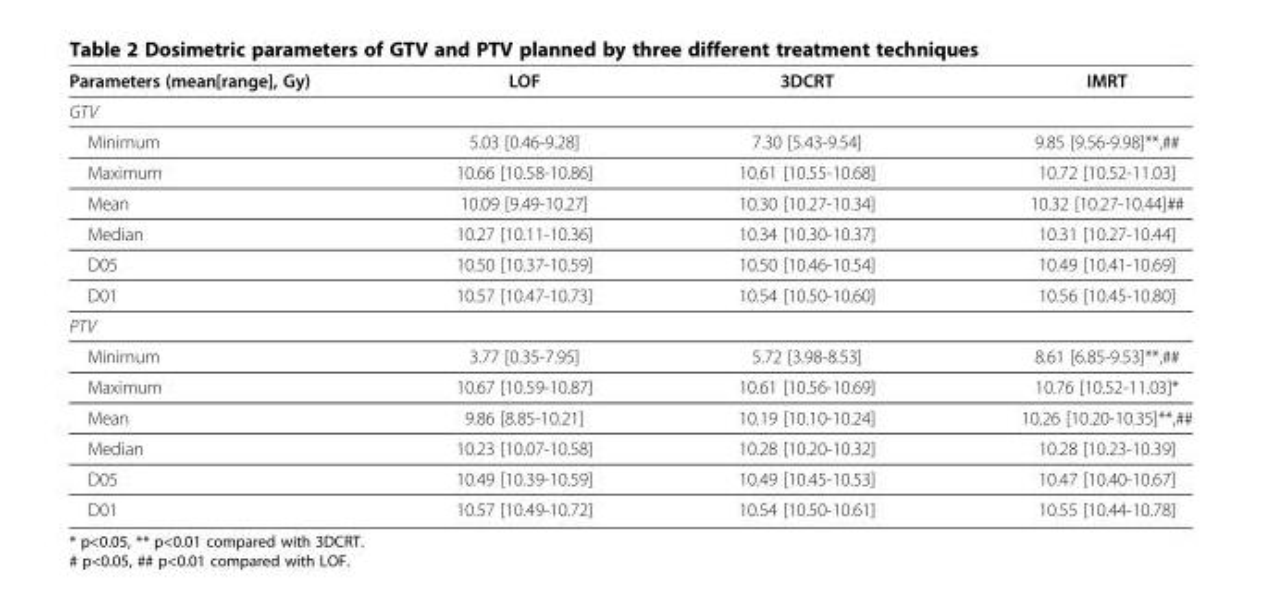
<table><thead><tr><td>Parameters (mean[range], Gy)</td><td>LOF</td><td>3DCRT</td><td>IMRT</td></tr></thead><tbody><tr><td colspan="4">GTV</td></tr><tr><td>Minimum</td><td>5.03 [0.46-9.28]</td><td>7.30 [5.43-9.54]</td><td>9.85 [9.56-9.98]**,##</td></tr><tr><td>Maximum</td><td>10.66 [10.58-10.86]</td><td>10.61 [10.55-10.68]</td><td>10.72 [10.52-11.03]</td></tr><tr><td>Mean</td><td>10.09 [9.49-10.27]</td><td>10.30 [10.27-10.34]</td><td>10.32 [10.27-10.44]##</td></tr><tr><td>Median</td><td>10.27 [10.11-10.36]</td><td>10.34 [10.30-10.37]</td><td>10.31 [10.27-10.44]</td></tr><tr><td>D05</td><td>10.50 [10.37-10.59]</td><td>10.50 [10.46-10.54]</td><td>10.49 [10.41-10.69]</td></tr><tr><td>D01</td><td>10.57 [10.47-10.73]</td><td>10.54 [10.50-10.60]</td><td>10.56 [10.45-10.80]</td></tr><tr><td colspan="4">PTV</td></tr><tr><td>Minimum</td><td>3.77 [0.35-7.95]</td><td>5.72 [3.98-8.53]</td><td>8.61 [6.85-9.53]**,##</td></tr><tr><td>Maximum</td><td>10.67 [10.59-10.87]</td><td>10.61 [10.56-10.69]</td><td>10.76 [10.52-11.03]*</td></tr><tr><td>Mean</td><td>9.86 [8.85-10.21]</td><td>10.19 [10.10-10.24]</td><td>10.26 [10.20-10.35]**,##</td></tr><tr><td>Median</td><td>10.23 [10.07-10.58]</td><td>10.28 [10.20-10.32]</td><td>10.28 [10.23-10.39]</td></tr><tr><td>D05</td><td>10.49 [10.39-10.59]</td><td>10.49 [10.45-10.53]</td><td>10.47 [10.40-10.67]</td></tr><tr><td>D01</td><td>10.57 [10.49-10.72]</td><td>10.54 [10.50-10.61]</td><td>10.55 [10.44-10.78]</td></tr></tbody></table>